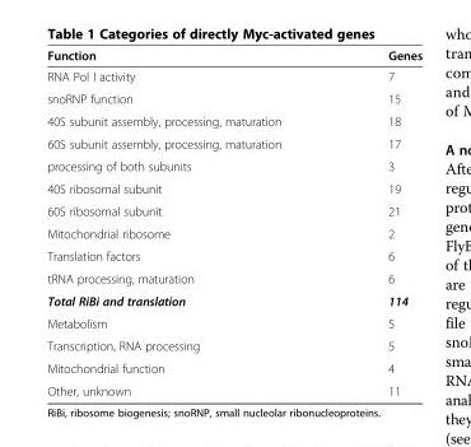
<table><thead><tr><td>Function</td><td>Genes</td></tr></thead><tbody><tr><td>RNA Pol I activity</td><td>7</td></tr><tr><td>snoRNP function</td><td>15</td></tr><tr><td>40S subunit assembly, processing, maturation</td><td>18</td></tr><tr><td>60S subunit assembly, processing, maturation</td><td>17</td></tr><tr><td>processing of both subunits</td><td>3</td></tr><tr><td>40S ribosomal subunit</td><td>19</td></tr><tr><td>60S ribosomal subunit</td><td>21</td></tr><tr><td>Mitochondrial ribosome</td><td>2</td></tr><tr><td>Translation factors</td><td>6</td></tr><tr><td>tRNA processing, maturation</td><td>6</td></tr><tr><td>Total RiBi and translation</td><td>114</td></tr><tr><td>Metabolism</td><td>5</td></tr><tr><td>Transcription, RNA processing</td><td>5</td></tr><tr><td>Mitochondrial function</td><td>4</td></tr><tr><td>Other, unknown</td><td>11</td></tr></tbody></table>